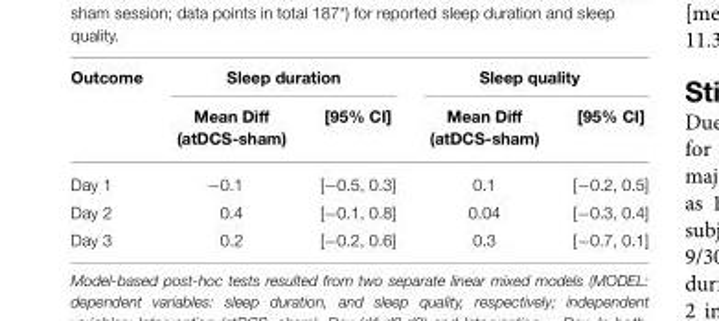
<table><thead><tr><td rowspan="2">Outcome</td><td colspan="2">Sleep duration</td><td colspan="2">Sleep quality</td></tr><tr><td>Mean Diff (atDCS-sham)</td><td>[95% CI]</td><td>Mean Diff (atDCS-sham)</td><td>[95% CI]</td></tr></thead><tbody><tr><td>Day 1</td><td>−0.1</td><td>[−0.5, 0.3]</td><td>0.1</td><td>[−0.2, 0.5]</td></tr><tr><td>Day 2</td><td>0.4</td><td>[−0.1, 0.8]</td><td>0.04</td><td>[−0.3, 0.4]</td></tr><tr><td>Day 3</td><td>0.2</td><td>[−0.2, 0.6]</td><td>0.3</td><td>[−0.7, 0.1]</td></tr></tbody></table>